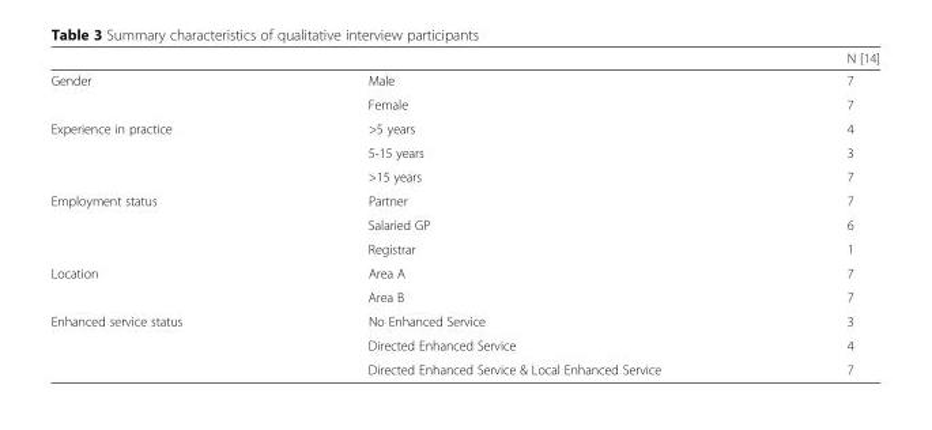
<table><thead><tr><td></td><td></td><td>N [14]</td></tr></thead><tbody><tr><td rowspan="2">Gender</td><td>Male</td><td>7</td></tr><tr><td>Female</td><td>7</td></tr><tr><td rowspan="3">Experience in practice</td><td>&gt;5 years</td><td>4</td></tr><tr><td>5-15 years</td><td>3</td></tr><tr><td>&gt;15 years</td><td>7</td></tr><tr><td rowspan="3">Employment status</td><td>Partner</td><td>7</td></tr><tr><td>Salaried GP</td><td>6</td></tr><tr><td>Registrar</td><td>1</td></tr><tr><td rowspan="2">Location</td><td>Area A</td><td>7</td></tr><tr><td>Area B</td><td>7</td></tr><tr><td rowspan="3">Enhanced service status</td><td>No Enhanced Service</td><td>3</td></tr><tr><td>Directed Enhanced Service</td><td>4</td></tr><tr><td>Directed Enhanced Service &amp; Local Enhanced Service</td><td>7</td></tr></tbody></table>